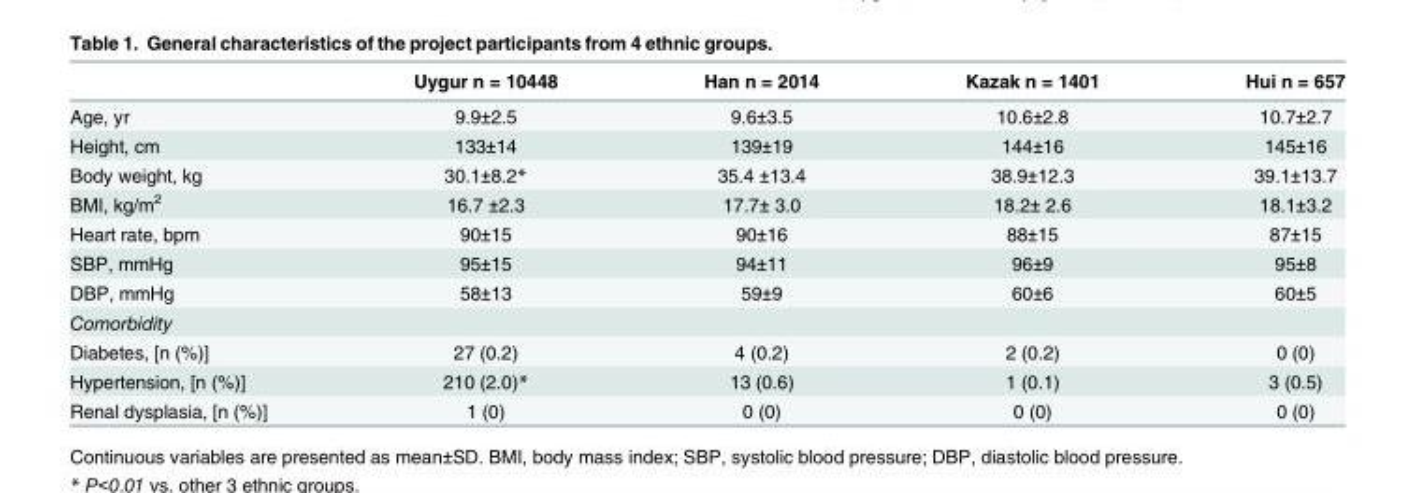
<table><thead><tr><td></td><td>Uygur n = 10448</td><td>Han n = 2014</td><td>Kazak n = 1401</td><td>Hui n = 657</td></tr></thead><tbody><tr><td>Age, yr</td><td>9.9±2.5</td><td>9.6±3.5</td><td>10.6±2.8</td><td>10.7±2.7</td></tr><tr><td>Height, cm</td><td>133±14</td><td>139±19</td><td>144±16</td><td>145±16</td></tr><tr><td>Body weight, kg</td><td>30.1±8.2*</td><td>35.4 ±13.4</td><td>38.9±12.3</td><td>39.1±13.7</td></tr><tr><td>BMI, kg/m<sup>2</sup></td><td>16.7 ±2.3</td><td>17.7± 3.0</td><td>18.2± 2.6</td><td>18.1±3.2</td></tr><tr><td>Heart rate, bpm</td><td>90±15</td><td>90±16</td><td>88±15</td><td>87±15</td></tr><tr><td>SBP, mmHg</td><td>95±15</td><td>94±11</td><td>96±9</td><td>95±8</td></tr><tr><td>DBP, mmHg</td><td>58±13</td><td>59±9</td><td>60±6</td><td>60±5</td></tr><tr><td colspan="5">Comorbidity</td></tr><tr><td>Diabetes, [n (%)]</td><td>27 (0.2)</td><td>4 (0.2)</td><td>2 (0.2)</td><td>0 (0)</td></tr><tr><td>Hypertension, [n (%)]</td><td>210 (2.0)*</td><td>13 (0.6)</td><td>1 (0.1)</td><td>3 (0.5)</td></tr><tr><td>Renal dysplasia, [n (%)]</td><td>1 (0)</td><td>0 (0)</td><td>0 (0)</td><td>0 (0)</td></tr></tbody></table>